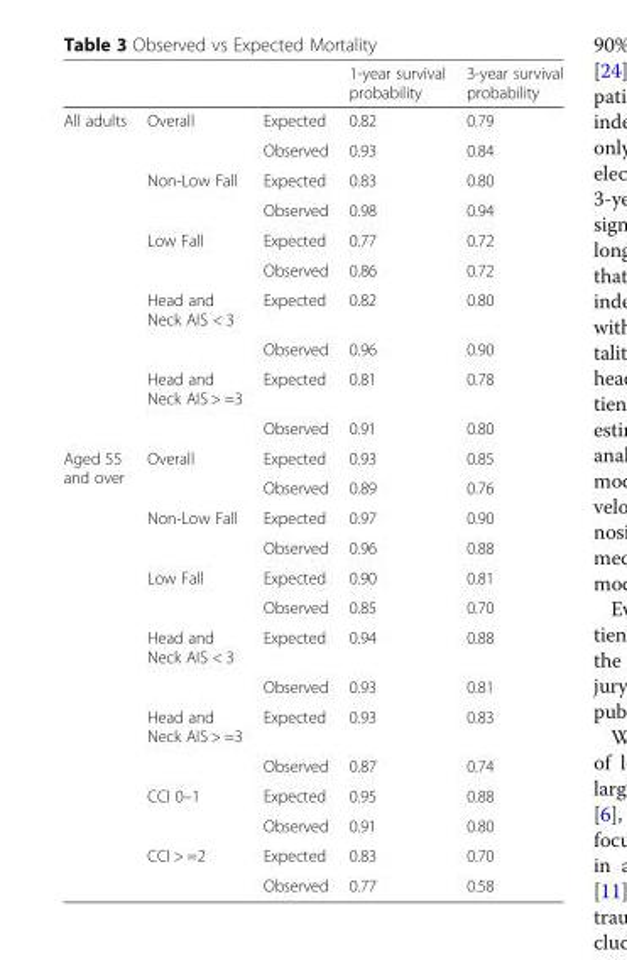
<table><thead><tr><td></td><td></td><td></td><td>1-year survival probability</td><td>3-year survival probability</td></tr></thead><tbody><tr><td rowspan="10">All adults</td><td>Overall</td><td>Expected</td><td>0.82</td><td>0.79</td></tr><tr><td></td><td>Observed</td><td>0.93</td><td>0.84</td></tr><tr><td>Non-Low Fall</td><td>Expected</td><td>0.83</td><td>0.80</td></tr><tr><td></td><td>Observed</td><td>0.98</td><td>0.94</td></tr><tr><td>Low Fall</td><td>Expected</td><td>0.77</td><td>0.72</td></tr><tr><td></td><td>Observed</td><td>0.86</td><td>0.72</td></tr><tr><td>Head and Neck AIS &lt; 3</td><td>Expected</td><td>0.82</td><td>0.80</td></tr><tr><td></td><td>Observed</td><td>0.96</td><td>0.90</td></tr><tr><td>Head and Neck AIS &gt; =3</td><td>Expected</td><td>0.81</td><td>0.78</td></tr><tr><td></td><td>Observed</td><td>0.91</td><td>0.80</td></tr><tr><td rowspan="14">Aged 55 and over</td><td>Overall</td><td>Expected</td><td>0.93</td><td>0.85</td></tr><tr><td></td><td>Observed</td><td>0.89</td><td>0.76</td></tr><tr><td>Non-Low Fall</td><td>Expected</td><td>0.97</td><td>0.90</td></tr><tr><td></td><td>Observed</td><td>0.96</td><td>0.88</td></tr><tr><td>Low Fall</td><td>Expected</td><td>0.90</td><td>0.81</td></tr><tr><td></td><td>Observed</td><td>0.85</td><td>0.70</td></tr><tr><td>Head and Neck AIS &lt; 3</td><td>Expected</td><td>0.94</td><td>0.88</td></tr><tr><td></td><td>Observed</td><td>0.93</td><td>0.81</td></tr><tr><td>Head and Neck AIS &gt; =3</td><td>Expected</td><td>0.93</td><td>0.83</td></tr><tr><td></td><td>Observed</td><td>0.87</td><td>0.74</td></tr><tr><td>CCI 0–1</td><td>Expected</td><td>0.95</td><td>0.88</td></tr><tr><td></td><td>Observed</td><td>0.91</td><td>0.80</td></tr><tr><td>CCI &gt; =2</td><td>Expected</td><td>0.83</td><td>0.70</td></tr><tr><td></td><td>Observed</td><td>0.77</td><td>0.58</td></tr></tbody></table>